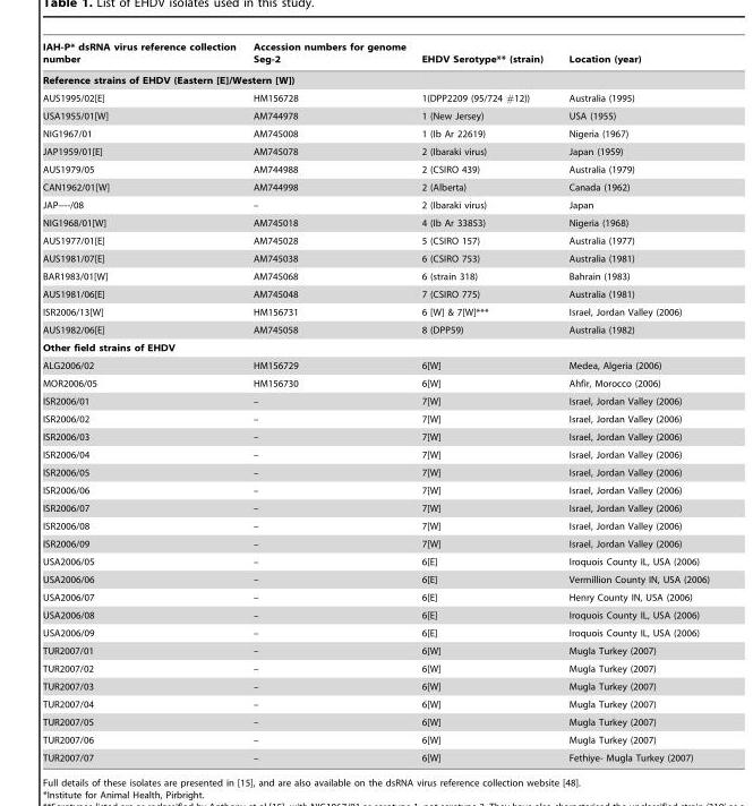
<table><thead><tr><td>IAH-P* dsRNA virus reference collection number</td><td>Accession numbers for genome Seg-2</td><td>EHDV Serotype** (strain)</td><td>Location (year)</td></tr></thead><tbody><tr><td colspan="4">Reference strains of EHDV (Eastern [E]/Western [W])</td></tr><tr><td>AUS1995/02[E]</td><td>HM156728</td><td>1(DPP2209 (95/724 #12))</td><td>Australia (1995)</td></tr><tr><td>USA1955/01[W]</td><td>AM744978</td><td>1 (New Jersey)</td><td>USA (1955)</td></tr><tr><td>NIG1967/01</td><td>AM745008</td><td>1 (Ib Ar 22619)</td><td>Nigeria (1967)</td></tr><tr><td>JAP1959/01[E]</td><td>AM745078</td><td>2 (Ibaraki virus)</td><td>Japan (1959)</td></tr><tr><td>AUS1979/05</td><td>AM744988</td><td>2 (CSIRO 439)</td><td>Australia (1979)</td></tr><tr><td>CAN1962/01[W]</td><td>AM744998</td><td>2 (Alberta)</td><td>Canada (1962)</td></tr><tr><td>JAP----/08</td><td>–</td><td>2 (Ibaraki virus)</td><td>Japan</td></tr><tr><td>NIG1968/01[W]</td><td>AM745018</td><td>4 (Ib Ar 33853)</td><td>Nigeria (1968)</td></tr><tr><td>AUS1977/01[E]</td><td>AM745028</td><td>5 (CSIRO 157)</td><td>Australia (1977)</td></tr><tr><td>AUS1981/07[E]</td><td>AM745038</td><td>6 (CSIRO 753)</td><td>Australia (1981)</td></tr><tr><td>BAR1983/01[W]</td><td>AM745068</td><td>6 (strain 318)</td><td>Bahrain (1983)</td></tr><tr><td>AUS1981/06[E]</td><td>AM745048</td><td>7 (CSIRO 775)</td><td>Australia (1981)</td></tr><tr><td>ISR2006/13[W]</td><td>HM156731</td><td>6 [W] &amp; 7[W]***</td><td>Israel, Jordan Valley (2006)</td></tr><tr><td>AUS1982/06[E]</td><td>AM745058</td><td>8 (DPP59)</td><td>Australia (1982)</td></tr><tr><td colspan="4">Other field strains of EHDV</td></tr><tr><td>ALG2006/02</td><td>HM156729</td><td>6[W]</td><td>Medea, Algeria (2006)</td></tr><tr><td>MOR2006/05</td><td>HM156730</td><td>6[W]</td><td>Ahfir, Morocco (2006)</td></tr><tr><td>ISR2006/01</td><td>–</td><td>7[W]</td><td>Israel, Jordan Valley (2006)</td></tr><tr><td>ISR2006/02</td><td>–</td><td>7[W]</td><td>Israel, Jordan Valley (2006)</td></tr><tr><td>ISR2006/03</td><td>–</td><td>7[W]</td><td>Israel, Jordan Valley (2006)</td></tr><tr><td>ISR2006/04</td><td>–</td><td>7[W]</td><td>Israel, Jordan Valley (2006)</td></tr><tr><td>ISR2006/05</td><td>–</td><td>7[W]</td><td>Israel, Jordan Valley (2006)</td></tr><tr><td>ISR2006/06</td><td>–</td><td>7[W]</td><td>Israel, Jordan Valley (2006)</td></tr><tr><td>ISR2006/07</td><td>–</td><td>7[W]</td><td>Israel, Jordan Valley (2006)</td></tr><tr><td>ISR2006/08</td><td>–</td><td>7[W]</td><td>Israel, Jordan Valley (2006)</td></tr><tr><td>ISR2006/09</td><td>–</td><td>7[W]</td><td>Israel, Jordan Valley (2006)</td></tr><tr><td>USA2006/05</td><td>–</td><td>6[E]</td><td>Iroquois County IL, USA (2006)</td></tr><tr><td>USA2006/06</td><td>–</td><td>6[E]</td><td>Vermillion County IN, USA (2006)</td></tr><tr><td>USA2006/07</td><td>–</td><td>6[E]</td><td>Henry County IN, USA (2006)</td></tr><tr><td>USA2006/08</td><td>–</td><td>6[E]</td><td>Iroquois County IL, USA (2006)</td></tr><tr><td>USA2006/09</td><td>–</td><td>6[E]</td><td>Iroquois County IL, USA (2006)</td></tr><tr><td>TUR2007/01</td><td>–</td><td>6[W]</td><td>Mugla Turkey (2007)</td></tr><tr><td>TUR2007/02</td><td>–</td><td>6[W]</td><td>Mugla Turkey (2007)</td></tr><tr><td>TUR2007/03</td><td>–</td><td>6[W]</td><td>Mugla Turkey (2007)</td></tr><tr><td>TUR2007/04</td><td>–</td><td>6[W]</td><td>Mugla Turkey (2007)</td></tr><tr><td>TUR2007/05</td><td>–</td><td>6[W]</td><td>Mugla Turkey (2007)</td></tr><tr><td>TUR2007/06</td><td>–</td><td>6[W]</td><td>Mugla Turkey (2007)</td></tr><tr><td>TUR2007/07</td><td>–</td><td>6[W]</td><td>Fethiye- Mugla Turkey (2007)</td></tr></tbody></table>